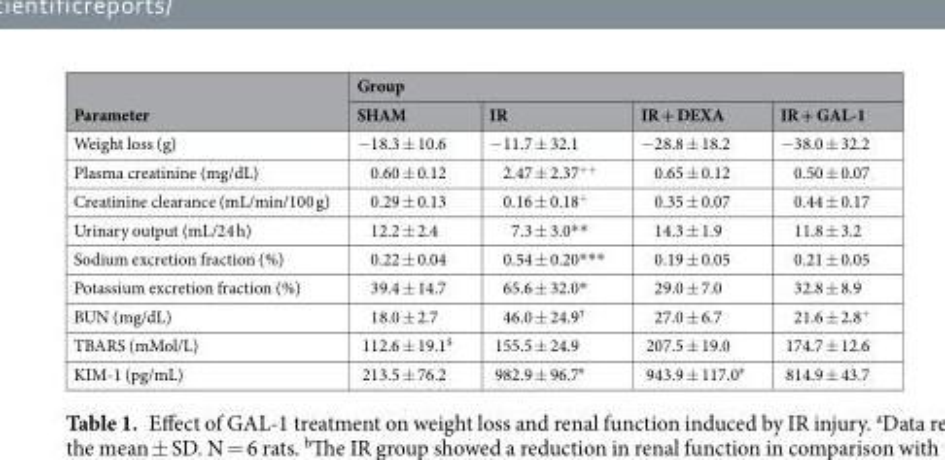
<table><thead><tr><td rowspan="2">Parameter</td><td colspan="4">Group</td></tr><tr><td>SHAM</td><td>IR</td><td>IR + DEXA</td><td>IR + GAL-1</td></tr></thead><tbody><tr><td>Weight loss (g)</td><td>−18.3 ± 10.6</td><td>−11.7 ± 32.1</td><td>−28.8 ± 18.2</td><td>−38.0 ± 32.2</td></tr><tr><td>Plasma creatinine (mg/dL)</td><td>0.60 ± 0.12</td><td>2.47 ± 2.37<sup>++</sup></td><td>0.65 ± 0.12</td><td>0.50 ± 0.07</td></tr><tr><td>Creatinine clearance (mL/min/100 g)</td><td>0.29 ± 0.13</td><td>0.16 ± 0.18<sup>+</sup></td><td>0.35 ± 0.07</td><td>0.44 ± 0.17</td></tr><tr><td>Urinary output (mL/24 h)</td><td>12.2 ± 2.4</td><td>7.3 ± 3.0**</td><td>14.3 ± 1.9</td><td>11.8 ± 3.2</td></tr><tr><td>Sodium excretion fraction (%)</td><td>0.22 ± 0.04</td><td>0.54 ± 0.20***</td><td>0.19 ± 0.05</td><td>0.21 ± 0.05</td></tr><tr><td>Potassium excretion fraction (%)</td><td>39.4 ± 14.7</td><td>65.6 ± 32.0*</td><td>29.0 ± 7.0</td><td>32.8 ± 8.9</td></tr><tr><td>BUN (mg/dL)</td><td>18.0 ± 2.7</td><td>46.0 ± 24.9<sup>†</sup></td><td>27.0 ± 6.7</td><td>21.6 ± 2.8<sup>+</sup></td></tr><tr><td>TBARS (mMol/L)</td><td>112.6 ± 19.1<sup>$</sup></td><td>155.5 ± 24.9</td><td>207.5 ± 19.0</td><td>174.7 ± 12.6</td></tr><tr><td>KIM-1 (pg/mL)</td><td>213.5 ± 76.2</td><td>982.9 ± 96.7<sup>#</sup></td><td>943.9 ± 117.0<sup>#</sup></td><td>814.9 ± 43.7</td></tr></tbody></table>